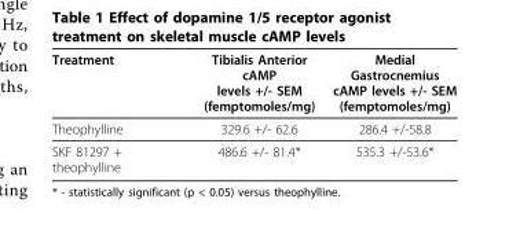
<table><thead><tr><td>Treatment</td><td>Tibialis Anterior cAMP levels +/- SEM (femptomoles/mg)</td><td>Medial Gastrocnemius cAMP levels +/- SEM (femptomoles/mg)</td></tr></thead><tbody><tr><td>Theophylline</td><td>329.6 +/- 62.6</td><td>286.4 +/-58.8</td></tr><tr><td>SKF 81297 + theophylline</td><td>486.6 +/- 81.4*</td><td>535.3 +/-53.6*</td></tr></tbody></table>